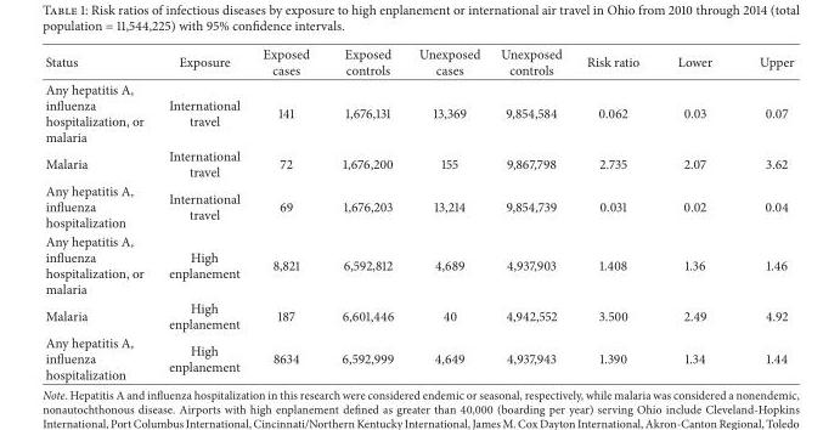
<table><thead><tr><td>Status</td><td>Exposure</td><td>Exposed cases</td><td>Exposed controls</td><td>Unexposed cases</td><td>Unexposed controls</td><td>Risk ratio</td><td>Lower</td><td>Upper</td></tr></thead><tbody><tr><td>Any hepatitis A, influenza hospitalization, or malaria</td><td>International travel</td><td>141</td><td>1,676,131</td><td>13,369</td><td>9,854,584</td><td>0.062</td><td>0.03</td><td>0.07</td></tr><tr><td>Malaria</td><td>International travel</td><td>72</td><td>1,676,200</td><td>155</td><td>9,867,798</td><td>2.735</td><td>2.07</td><td>3.62</td></tr><tr><td>Any hepatitis A, influenza hospitalization</td><td>International travel</td><td>69</td><td>1,676,203</td><td>13,214</td><td>9,854,739</td><td>0.031</td><td>0.02</td><td>0.04</td></tr><tr><td>Any hepatitis A, influenza hospitalization, or malaria</td><td>High enplanement</td><td>8,821</td><td>6,592,812</td><td>4,689</td><td>4,937,903</td><td>1.408</td><td>1.36</td><td>1.46</td></tr><tr><td>Malaria</td><td>High enplanement</td><td>187</td><td>6,601,446</td><td>40</td><td>4,942,552</td><td>3.500</td><td>2.49</td><td>4.92</td></tr><tr><td>Any hepatitis A, influenza hospitalization</td><td>High enplanement</td><td>8634</td><td>6,592,999</td><td>4,649</td><td>4,937,943</td><td>1.390</td><td>1.34</td><td>1.44</td></tr></tbody></table>